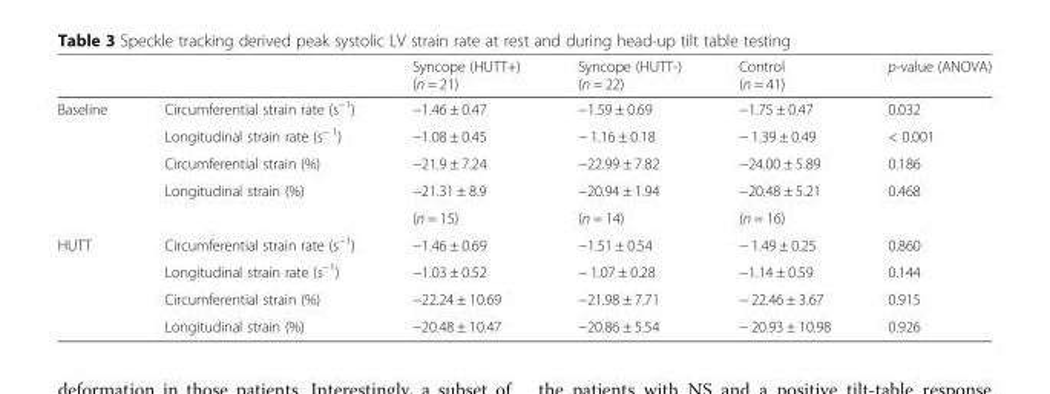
<table><thead><tr><td></td><td></td><td>Syncope (HUTT+) (n = 21)</td><td>Syncope (HUTT-) (n = 22)</td><td>Control (n = 41)</td><td>p-value (ANOVA)</td></tr></thead><tbody><tr><td rowspan="4">Baseline</td><td>Circumferential strain rate (s<sup>−1</sup>)</td><td>−1.46 ± 0.47</td><td>−1.59 ± 0.69</td><td>−1.75 ± 0.47</td><td>0.032</td></tr><tr><td>Longitudinal strain rate (s<sup>− 1</sup>)</td><td>−1.08 ± 0.45</td><td>− 1.16 ± 0.18</td><td>− 1.39 ± 0.49</td><td>&lt; 0.001</td></tr><tr><td>Circumferential strain (%)</td><td>−21.9 ± 7.24</td><td>−22.99 ± 7.82</td><td>−24.00 ± 5.89</td><td>0.186</td></tr><tr><td>Longitudinal strain (%)</td><td>−21.31 ± 8.9</td><td>−20.94 ± 1.94</td><td>−20.48 ± 5.21</td><td>0.468</td></tr><tr><td colspan="2"></td><td>(n = 15)</td><td>(n = 14)</td><td>(n = 16)</td><td></td></tr><tr><td rowspan="4">HUTT</td><td>Circumferential strain rate (s<sup>−1</sup>)</td><td>−1.46 ± 0.69</td><td>−1.51 ± 0.54</td><td>− 1.49 ± 0.25</td><td>0.860</td></tr><tr><td>Longitudinal strain rate (s<sup>−1</sup>)</td><td>−1.03 ± 0.52</td><td>− 1.07 ± 0.28</td><td>−1.14 ± 0.59</td><td>0.144</td></tr><tr><td>Circumferential strain (%)</td><td>−22.24 ± 10.69</td><td>−21.98 ± 7.71</td><td>− 22.46 ± 3.67</td><td>0.915</td></tr><tr><td>Longitudinal strain (%)</td><td>−20.48 ± 10.47</td><td>−20.86 ± 5.54</td><td>− 20.93 ± 10.98</td><td>0.926</td></tr></tbody></table>